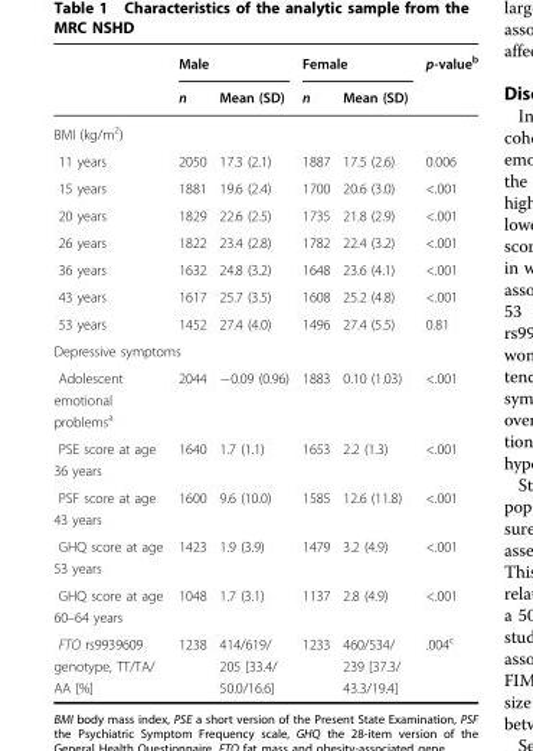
<table><thead><tr><td rowspan="2"></td><td colspan="2">Male</td><td colspan="2">Female</td><td rowspan="2">p-value<sup>b</sup></td></tr><tr><td>n</td><td>Mean (SD)</td><td>n</td><td>Mean (SD)</td></tr></thead><tbody><tr><td colspan="6">BMI (kg/m<sup>2</sup>)</td></tr><tr><td>11 years</td><td>2050</td><td>17.3 (2.1)</td><td>1887</td><td>17.5 (2.6)</td><td>0.006</td></tr><tr><td>15 years</td><td>1881</td><td>19.6 (2.4)</td><td>1700</td><td>20.6 (3.0)</td><td>&lt;.001</td></tr><tr><td>20 years</td><td>1829</td><td>22.6 (2.5)</td><td>1735</td><td>21.8 (2.9)</td><td>&lt;.001</td></tr><tr><td>26 years</td><td>1822</td><td>23.4 (2.8)</td><td>1782</td><td>22.4 (3.2)</td><td>&lt;.001</td></tr><tr><td>36 years</td><td>1632</td><td>24.8 (3.2)</td><td>1648</td><td>23.6 (4.1)</td><td>&lt;.001</td></tr><tr><td>43 years</td><td>1617</td><td>25.7 (3.5)</td><td>1608</td><td>25.2 (4.8)</td><td>&lt;.001</td></tr><tr><td>53 years</td><td>1452</td><td>27.4 (4.0)</td><td>1496</td><td>27.4 (5.5)</td><td>0.81</td></tr><tr><td colspan="6">Depressive symptoms</td></tr><tr><td>Adolescent emotional problems<sup>a</sup></td><td>2044</td><td>−0.09 (0.96)</td><td>1883</td><td>0.10 (1.03)</td><td>&lt;.001</td></tr><tr><td>PSE score at age 36 years</td><td>1640</td><td>1.7 (1.1)</td><td>1653</td><td>2.2 (1.3)</td><td>&lt;.001</td></tr><tr><td>PSF score at age 43 years</td><td>1600</td><td>9.6 (10.0)</td><td>1585</td><td>12.6 (11.8)</td><td>&lt;.001</td></tr><tr><td>GHQ score at age 53 years</td><td>1423</td><td>1.9 (3.9)</td><td>1479</td><td>3.2 (4.9)</td><td>&lt;.001</td></tr><tr><td>GHQ score at age 60–64 years</td><td>1048</td><td>1.7 (3.1)</td><td>1137</td><td>2.8 (4.9)</td><td>&lt;.001</td></tr><tr><td>FTO rs9939609 genotype, TT/TA/ AA [%]</td><td>1238</td><td>414/619/ 205 [33.4/ 50.0/16.6]</td><td>1233</td><td>460/534/ 239 [37.3/ 43.3/19.4]</td><td>.004<sup>c</sup></td></tr></tbody></table>